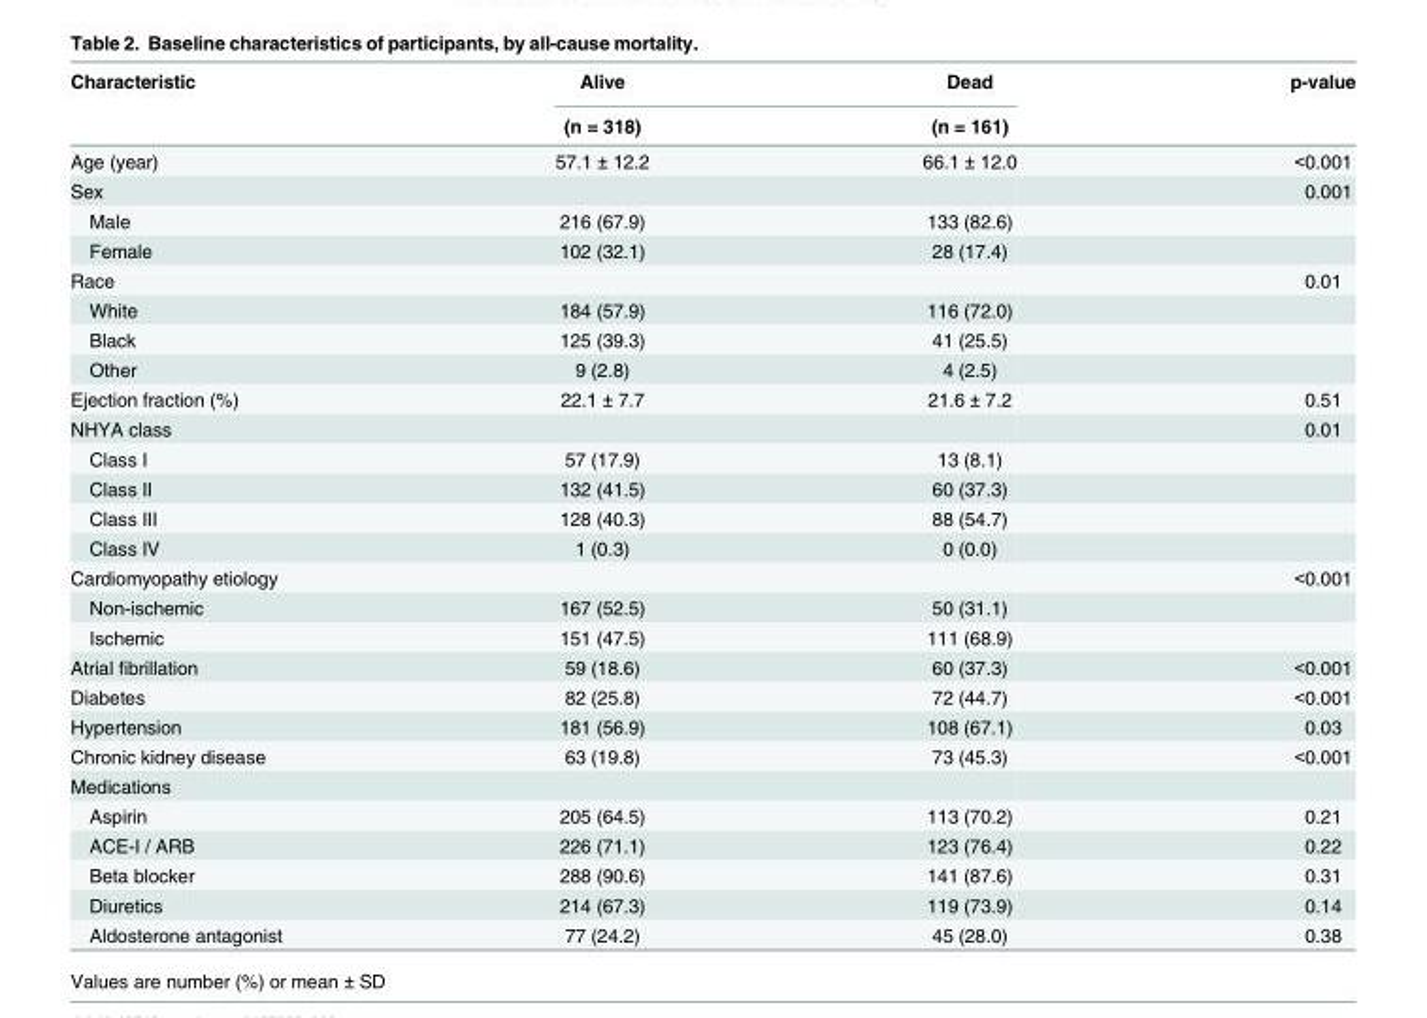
<table><thead><tr><td rowspan="2">Characteristic</td><td rowspan="2">Alive (n = 318)</td><td rowspan="2">Dead (n = 161)</td><td rowspan="2">p-value</td></tr><tr></tr></thead><tbody><tr><td>Age (year)</td><td>57.1 ± 12.2</td><td>66.1 ± 12.0</td><td>&lt;0.001</td></tr><tr><td>Sex</td><td></td><td></td><td>0.001</td></tr><tr><td>Male</td><td>216 (67.9)</td><td>133 (82.6)</td><td></td></tr><tr><td>Female</td><td>102 (32.1)</td><td>28 (17.4)</td><td></td></tr><tr><td>Race</td><td></td><td></td><td>0.01</td></tr><tr><td>White</td><td>184 (57.9)</td><td>116 (72.0)</td><td></td></tr><tr><td>Black</td><td>125 (39.3)</td><td>41 (25.5)</td><td></td></tr><tr><td>Other</td><td>9 (2.8)</td><td>4 (2.5)</td><td></td></tr><tr><td>Ejection fraction (%)</td><td>22.1 ± 7.7</td><td>21.6 ± 7.2</td><td>0.51</td></tr><tr><td>NHYA class</td><td></td><td></td><td>0.01</td></tr><tr><td>Class I</td><td>57 (17.9)</td><td>13 (8.1)</td><td></td></tr><tr><td>Class II</td><td>132 (41.5)</td><td>60 (37.3)</td><td></td></tr><tr><td>Class III</td><td>128 (40.3)</td><td>88 (54.7)</td><td></td></tr><tr><td>Class IV</td><td>1 (0.3)</td><td>0 (0.0)</td><td></td></tr><tr><td>Cardiomyopathy etiology</td><td></td><td></td><td>&lt;0.001</td></tr><tr><td>Non-ischemic</td><td>167 (52.5)</td><td>50 (31.1)</td><td></td></tr><tr><td>Ischemic</td><td>151 (47.5)</td><td>111 (68.9)</td><td></td></tr><tr><td>Atrial fibrillation</td><td>59 (18.6)</td><td>60 (37.3)</td><td>&lt;0.001</td></tr><tr><td>Diabetes</td><td>82 (25.8)</td><td>72 (44.7)</td><td>&lt;0.001</td></tr><tr><td>Hypertension</td><td>181 (56.9)</td><td>108 (67.1)</td><td>0.03</td></tr><tr><td>Chronic kidney disease</td><td>63 (19.8)</td><td>73 (45.3)</td><td>&lt;0.001</td></tr><tr><td colspan="4">Medications</td></tr><tr><td>Aspirin</td><td>205 (64.5)</td><td>113 (70.2)</td><td>0.21</td></tr><tr><td>ACE-I / ARB</td><td>226 (71.1)</td><td>123 (76.4)</td><td>0.22</td></tr><tr><td>Beta blocker</td><td>288 (90.6)</td><td>141 (87.6)</td><td>0.31</td></tr><tr><td>Diuretics</td><td>214 (67.3)</td><td>119 (73.9)</td><td>0.14</td></tr><tr><td>Aldosterone antagonist</td><td>77 (24.2)</td><td>45 (28.0)</td><td>0.38</td></tr></tbody></table>